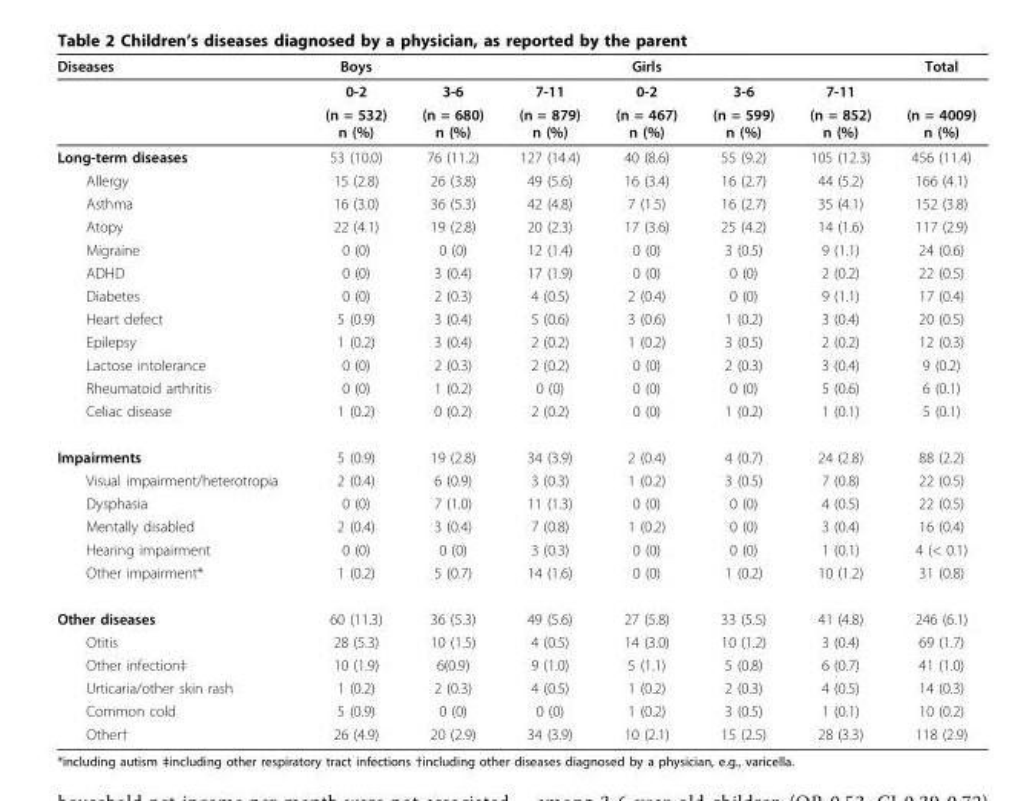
<table><thead><tr><td>Diseases</td><td>Boys</td><td></td><td></td><td>Girls</td><td></td><td></td><td>Total</td></tr></thead><tbody><tr><td></td><td>0-2</td><td>3-6</td><td>7-11</td><td>0-2</td><td>3-6</td><td>7-11</td><td></td></tr><tr><td></td><td>(n = 532) n (%)</td><td>(n = 680) n (%)</td><td>(n = 879) n (%)</td><td>(n = 467) n (%)</td><td>(n = 599) n (%)</td><td>(n = 852) n (%)</td><td>(n = 4009) n (%)</td></tr><tr><td>Long-term diseases</td><td>53 (10.0)</td><td>76 (11.2)</td><td>127 (14.4)</td><td>40 (8.6)</td><td>55 (9.2)</td><td>105 (12.3)</td><td>456 (11.4)</td></tr><tr><td>Allergy</td><td>15 (2.8)</td><td>26 (3.8)</td><td>49 (5.6)</td><td>16 (3.4)</td><td>16 (2.7)</td><td>44 (5.2)</td><td>166 (4.1)</td></tr><tr><td>Asthma</td><td>16 (3.0)</td><td>36 (5.3)</td><td>42 (4.8)</td><td>7 (1.5)</td><td>16 (2.7)</td><td>35 (4.1)</td><td>152 (3.8)</td></tr><tr><td>Atopy</td><td>22 (4.1)</td><td>19 (2.8)</td><td>20 (2.3)</td><td>17 (3.6)</td><td>25 (4.2)</td><td>14 (1.6)</td><td>117 (2.9)</td></tr><tr><td>Migraine</td><td>0 (0)</td><td>0 (0)</td><td>12 (1.4)</td><td>0 (0)</td><td>3 (0.5)</td><td>9 (1.1)</td><td>24 (0.6)</td></tr><tr><td>ADHD</td><td>0 (0)</td><td>3 (0.4)</td><td>17 (1.9)</td><td>0 (0)</td><td>0 (0)</td><td>2 (0.2)</td><td>22 (0.5)</td></tr><tr><td>Diabetes</td><td>0 (0)</td><td>2 (0.3)</td><td>4 (0.5)</td><td>2 (0.4)</td><td>0 (0)</td><td>9 (1.1)</td><td>17 (0.4)</td></tr><tr><td>Heart defect</td><td>5 (0.9)</td><td>3 (0.4)</td><td>5 (0.6)</td><td>3 (0.6)</td><td>1 (0.2)</td><td>3 (0.4)</td><td>20 (0.5)</td></tr><tr><td>Epilepsy</td><td>1 (0.2)</td><td>3 (0.4)</td><td>2 (0.2)</td><td>1 (0.2)</td><td>3 (0.5)</td><td>2 (0.2)</td><td>12 (0.3)</td></tr><tr><td>Lactose intolerance</td><td>0 (0)</td><td>2 (0.3)</td><td>2 (0.2)</td><td>0 (0)</td><td>2 (0.3)</td><td>3 (0.4)</td><td>9 (0.2)</td></tr><tr><td>Rheumatoid arthritis</td><td>0 (0)</td><td>1 (0.2)</td><td>0 (0)</td><td>0 (0)</td><td>0 (0)</td><td>5 (0.6)</td><td>6 (0.1)</td></tr><tr><td>Celiac disease</td><td>1 (0.2)</td><td>0 (0.2)</td><td>2 (0.2)</td><td>0 (0)</td><td>1 (0.2)</td><td>1 (0.1)</td><td>5 (0.1)</td></tr><tr><td>Impairments</td><td>5 (0.9)</td><td>19 (2.8)</td><td>34 (3.9)</td><td>2 (0.4)</td><td>4 (0.7)</td><td>24 (2.8)</td><td>88 (2.2)</td></tr><tr><td>Visual impairment/heterotropia</td><td>2 (0.4)</td><td>6 (0.9)</td><td>3 (0.3)</td><td>1 (0.2)</td><td>3 (0.5)</td><td>7 (0.8)</td><td>22 (0.5)</td></tr><tr><td>Dysphasia</td><td>0 (0)</td><td>7 (1.0)</td><td>11 (1.3)</td><td>0 (0)</td><td>0 (0)</td><td>4 (0.5)</td><td>22 (0.5)</td></tr><tr><td>Mentally disabled</td><td>2 (0.4)</td><td>3 (0.4)</td><td>7 (0.8)</td><td>1 (0.2)</td><td>0 (0)</td><td>3 (0.4)</td><td>16 (0.4)</td></tr><tr><td>Hearing impairment</td><td>0 (0)</td><td>0 (0)</td><td>3 (0.3)</td><td>0 (0)</td><td>0 (0)</td><td>1 (0.1)</td><td>4 (&lt; 0.1)</td></tr><tr><td>Other impairment*</td><td>1 (0.2)</td><td>5 (0.7)</td><td>14 (1.6)</td><td>0 (0)</td><td>1 (0.2)</td><td>10 (1.2)</td><td>31 (0.8)</td></tr><tr><td>Other diseases</td><td>60 (11.3)</td><td>36 (5.3)</td><td>49 (5.6)</td><td>27 (5.8)</td><td>33 (5.5)</td><td>41 (4.8)</td><td>246 (6.1)</td></tr><tr><td>Otitis</td><td>28 (5.3)</td><td>10 (1.5)</td><td>4 (0.5)</td><td>14 (3.0)</td><td>10 (1.2)</td><td>3 (0.4)</td><td>69 (1.7)</td></tr><tr><td>Other infection‡</td><td>10 (1.9)</td><td>6(0.9)</td><td>9 (1.0)</td><td>5 (1.1)</td><td>5 (0.8)</td><td>6 (0.7)</td><td>41 (1.0)</td></tr><tr><td>Urticaria/other skin rash</td><td>1 (0.2)</td><td>2 (0.3)</td><td>4 (0.5)</td><td>1 (0.2)</td><td>2 (0.3)</td><td>4 (0.5)</td><td>14 (0.3)</td></tr><tr><td>Common cold</td><td>5 (0.9)</td><td>0 (0)</td><td>0 (0)</td><td>1 (0.2)</td><td>3 (0.5)</td><td>1 (0.1)</td><td>10 (0.2)</td></tr><tr><td>Other†</td><td>26 (4.9)</td><td>20 (2.9)</td><td>34 (3.9)</td><td>10 (2.1)</td><td>15 (2.5)</td><td>28 (3.3)</td><td>118 (2.9)</td></tr></tbody></table>